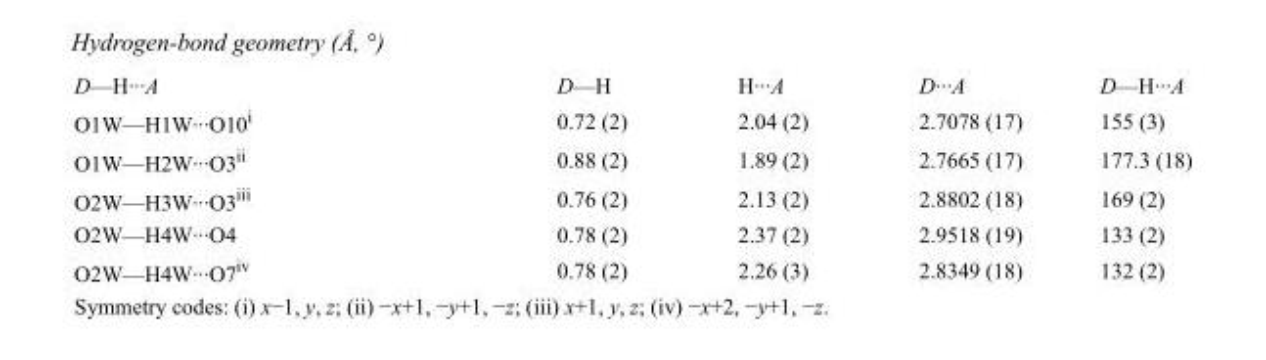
<table><tbody><tr><td>D—H···A</td><td>D—H</td><td>H···A</td><td>D···A</td><td>D—H···A</td></tr><tr><td>O1W—H1W···O10<sup>i</sup></td><td>0.72 (2)</td><td>2.04 (2)</td><td>2.7078 (17)</td><td>155 (3)</td></tr><tr><td>O1W—H2W···O3<sup>ii</sup></td><td>0.88 (2)</td><td>1.89 (2)</td><td>2.7665 (17)</td><td>177.3 (18)</td></tr><tr><td>O2W—H3W···O3<sup>iii</sup></td><td>0.76 (2)</td><td>2.13 (2)</td><td>2.8802 (18)</td><td>169 (2)</td></tr><tr><td>O2W—H4W···O4</td><td>0.78 (2)</td><td>2.37 (2)</td><td>2.9518 (19)</td><td>133 (2)</td></tr><tr><td>O2W—H4W···O7<sup>iv</sup></td><td>0.78 (2)</td><td>2.26 (3)</td><td>2.8349 (18)</td><td>132 (2)</td></tr></tbody></table>